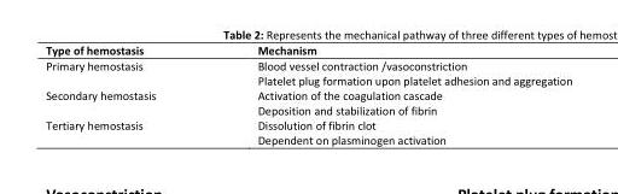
<table><thead><tr><td>Type of hemostasis</td><td>Mechanism</td></tr></thead><tbody><tr><td>Primary hemostasis</td><td>Blood vessel contraction /vasoconstriction Platelet plug formation upon platelet adhesion and aggregation</td></tr><tr><td>Secondary hemostasis</td><td>Activation of the coagulation cascade Deposition and stabilization of fibrin</td></tr><tr><td>Tertiary hemostasis</td><td>Dissolution of fibrin clot Dependent on plasminogen activation</td></tr></tbody></table>